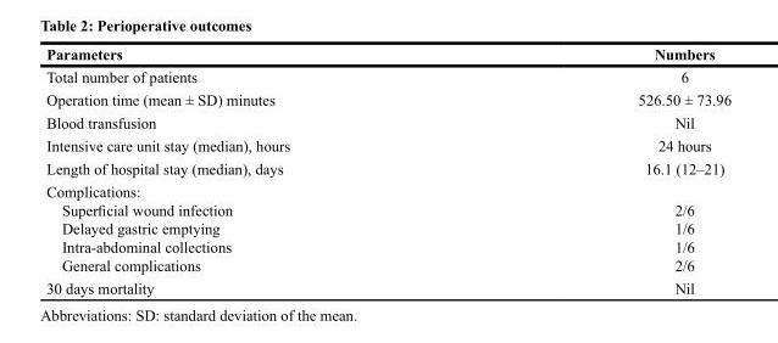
<table><thead><tr><td>Parameters</td><td>Numbers</td></tr></thead><tbody><tr><td>Total number of patients</td><td>6</td></tr><tr><td>Operation time (mean ± SD) minutes</td><td>526.50 ± 73.96</td></tr><tr><td>Blood transfusion</td><td>Nil</td></tr><tr><td>Intensive care unit stay (median), hours</td><td>24 hours</td></tr><tr><td>Length of hospital stay (median), days</td><td>16.1 (12–21)</td></tr><tr><td colspan="2">Complications:</td></tr><tr><td>Superficial wound infection</td><td>2/6</td></tr><tr><td>Delayed gastric emptying</td><td>1/6</td></tr><tr><td>Intra-abdominal collections</td><td>1/6</td></tr><tr><td>General complications</td><td>2/6</td></tr><tr><td>30 days mortality</td><td>Nil</td></tr></tbody></table>